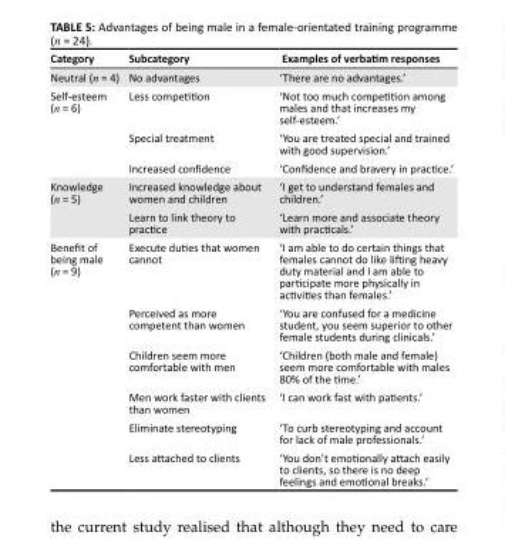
<table><thead><tr><td>Category</td><td>Subcategory</td><td>Examples of verbatim responses</td></tr></thead><tbody><tr><td>Neutral (n = 4)</td><td>No advantages</td><td>‘There are no advantages.’</td></tr><tr><td rowspan="3">Self-esteem (n = 6)</td><td>Less competition</td><td>‘Not too much competition among males and that increases my self-esteem.’</td></tr><tr><td>Special treatment</td><td>‘You are treated special and trained with good supervision.’</td></tr><tr><td>Increased confidence</td><td>‘Confidence and bravery in practice.’</td></tr><tr><td rowspan="2">Knowledge (n = 5)</td><td>Increased knowledge about women and children</td><td>‘I get to understand females and children.’</td></tr><tr><td>Learn to link theory to practice</td><td>‘Learn more and associate theory with practicals.’</td></tr><tr><td rowspan="6">Benefit of being male (n = 9)</td><td>Execute duties that women cannot</td><td>‘I am able to do certain things that females cannot do like lifting heavy duty material and I am able to participate more physically in activities than females.’</td></tr><tr><td>Perceived as more competent than women</td><td>‘You are confused for a medicine student, you seem superior to other female students during clinicals.’</td></tr><tr><td>Children seem more comfortable with men</td><td>‘Children (both male and female) seem more comfortable with males 80% of the time.’</td></tr><tr><td>Men work faster with clients than women</td><td>‘I can work fast with patients.’</td></tr><tr><td>Eliminate stereotyping</td><td>‘To curb stereotyping and account for lack of male professionals.’</td></tr><tr><td>Less attached to clients</td><td>‘You don’t emotionally attach easily to clients, so there is no deep feelings and emotional breaks.’</td></tr></tbody></table>